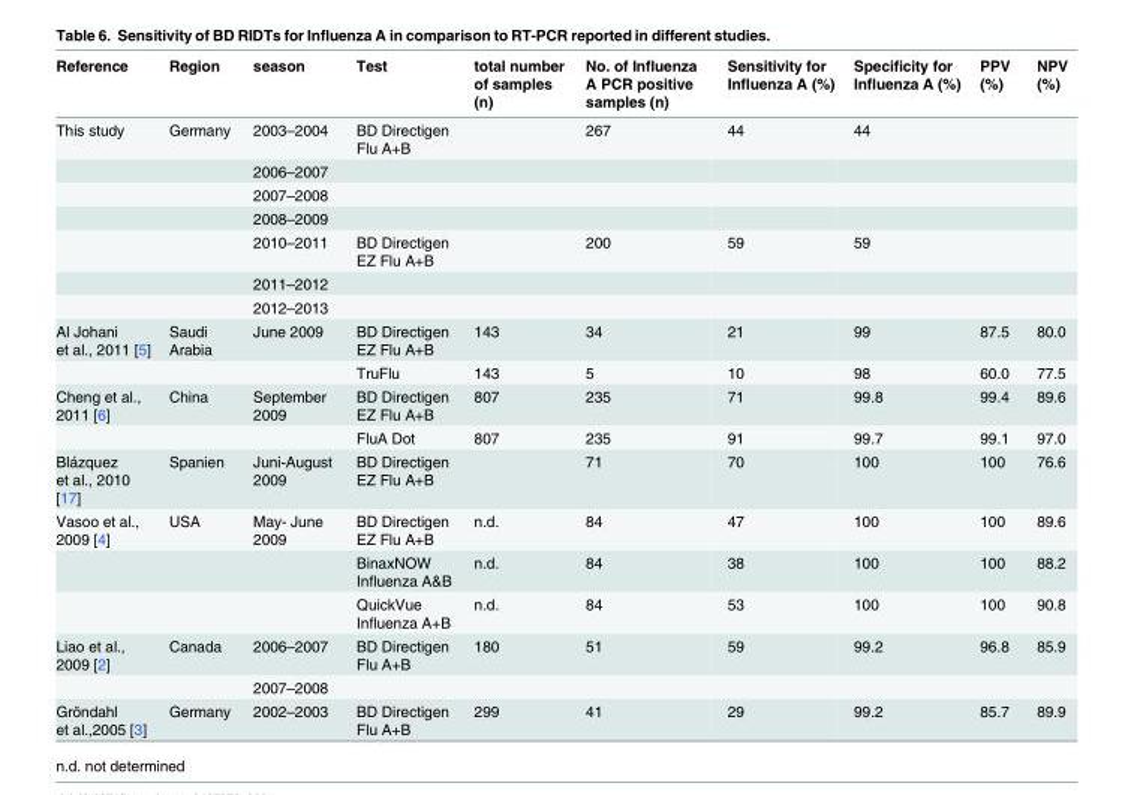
<table><thead><tr><td>Reference</td><td>Region</td><td>season</td><td>Test</td><td>total number of samples (n)</td><td>No. of Influenza A PCR positive samples (n)</td><td>Sensitivity for Influenza A (%)</td><td>Specificity for Influenza A (%)</td><td>PPV (%)</td><td>NPV (%)</td></tr></thead><tbody><tr><td rowspan="7">This study</td><td>Germany</td><td>2003–2004</td><td>BD Directigen Flu A+B</td><td></td><td>267</td><td>44</td><td>44</td><td></td><td></td></tr><tr><td></td><td>2006–2007</td><td></td><td></td><td></td><td></td><td></td><td></td><td></td></tr><tr><td></td><td>2007–2008</td><td></td><td></td><td></td><td></td><td></td><td></td><td></td></tr><tr><td></td><td>2008–2009</td><td></td><td></td><td></td><td></td><td></td><td></td><td></td></tr><tr><td></td><td>2010–2011</td><td>BD Directigen EZ Flu A+B</td><td></td><td>200</td><td>59</td><td>59</td><td></td><td></td></tr><tr><td></td><td>2011–2012</td><td></td><td></td><td></td><td></td><td></td><td></td><td></td></tr><tr><td></td><td>2012–2013</td><td></td><td></td><td></td><td></td><td></td><td></td><td></td></tr><tr><td rowspan="2">Al Johani et al., 2011 [5]</td><td>Saudi Arabia</td><td>June 2009</td><td>BD Directigen EZ Flu A+B</td><td>143</td><td>34</td><td>21</td><td>99</td><td>87.5</td><td>80.0</td></tr><tr><td></td><td></td><td>TruFlu</td><td>143</td><td>5</td><td>10</td><td>98</td><td>60.0</td><td>77.5</td></tr><tr><td rowspan="2">Cheng et al., 2011 [6]</td><td>China</td><td>September 2009</td><td>BD Directigen EZ Flu A+B</td><td>807</td><td>235</td><td>71</td><td>99.8</td><td>99.4</td><td>89.6</td></tr><tr><td></td><td></td><td>FluA Dot</td><td>807</td><td>235</td><td>91</td><td>99.7</td><td>99.1</td><td>97.0</td></tr><tr><td>Blázquez et al., 2010 [17]</td><td>Spanien</td><td>Juni-August 2009</td><td>BD Directigen EZ Flu A+B</td><td></td><td>71</td><td>70</td><td>100</td><td>100</td><td>76.6</td></tr><tr><td rowspan="3">Vasoo et al., 2009 [4]</td><td>USA</td><td>May- June 2009</td><td>BD Directigen EZ Flu A+B</td><td>n.d.</td><td>84</td><td>47</td><td>100</td><td>100</td><td>89.6</td></tr><tr><td></td><td></td><td>BinaxNOW Influenza A&amp;B</td><td>n.d.</td><td>84</td><td>38</td><td>100</td><td>100</td><td>88.2</td></tr><tr><td></td><td></td><td>QuickVue Influenza A+B</td><td>n.d.</td><td>84</td><td>53</td><td>100</td><td>100</td><td>90.8</td></tr><tr><td rowspan="2">Liao et al., 2009 [2]</td><td>Canada</td><td>2006–2007</td><td>BD Directigen Flu A+B</td><td>180</td><td>51</td><td>59</td><td>99.2</td><td>96.8</td><td>85.9</td></tr><tr><td></td><td>2007–2008</td><td></td><td></td><td></td><td></td><td></td><td></td><td></td></tr><tr><td>Gröndahl et al.,2005 [3]</td><td>Germany</td><td>2002–2003</td><td>BD Directigen Flu A+B</td><td>299</td><td>41</td><td>29</td><td>99.2</td><td>85.7</td><td>89.9</td></tr></tbody></table>